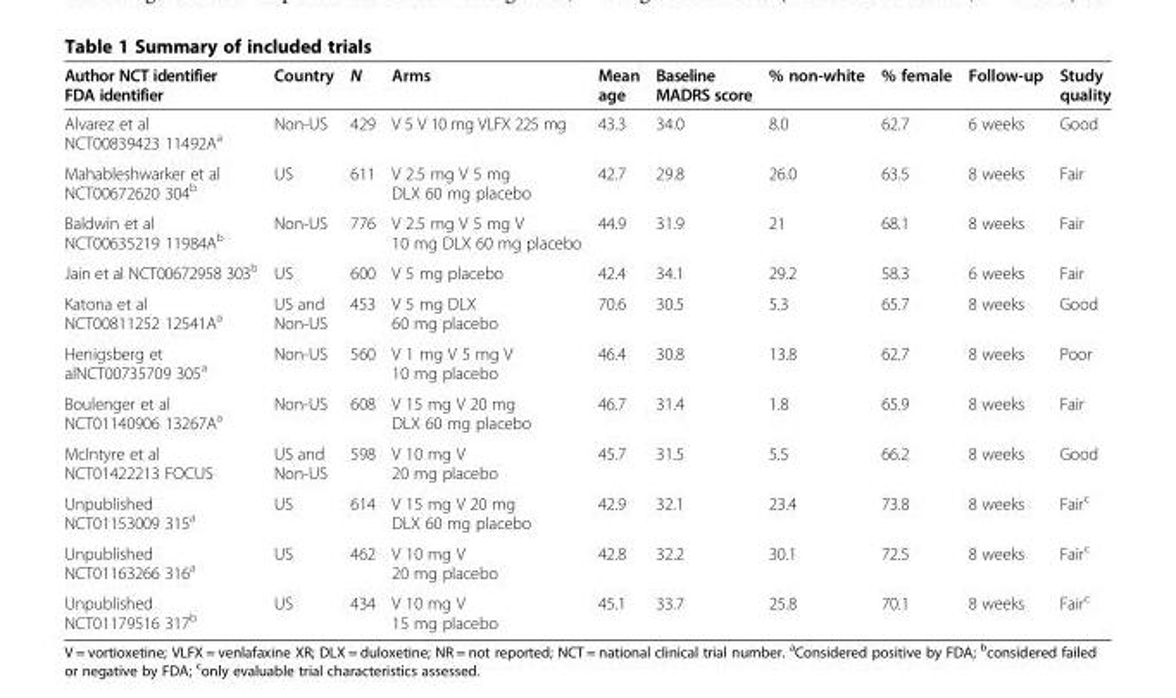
<table><thead><tr><td>Author NCT identifier FDA identifier</td><td>Country</td><td>N</td><td>Arms</td><td>Mean age</td><td>Baseline MADRS score</td><td>% non-white</td><td>% female</td><td>Follow-up</td><td>Study quality</td></tr></thead><tbody><tr><td>Alvarez et al NCT00839423 11492A<sup>a</sup></td><td>Non-US</td><td>429</td><td>V 5 V 10 mg VLFX 225 mg</td><td>43.3</td><td>34.0</td><td>8.0</td><td>62.7</td><td>6 weeks</td><td>Good</td></tr><tr><td>Mahableshwarker et al NCT00672620 304<sup>b</sup></td><td>US</td><td>611</td><td>V 2.5 mg V 5 mg DLX 60 mg placebo</td><td>42.7</td><td>29.8</td><td>26.0</td><td>63.5</td><td>8 weeks</td><td>Fair</td></tr><tr><td>Baldwin et al NCT00635219 11984A<sup>b</sup></td><td>Non-US</td><td>776</td><td>V 2.5 mg V 5 mg V 10 mg DLX 60 mg placebo</td><td>44.9</td><td>31.9</td><td>21</td><td>68.1</td><td>8 weeks</td><td>Fair</td></tr><tr><td>Jain et al NCT00672958 303<sup>b</sup></td><td>US</td><td>600</td><td>V 5 mg placebo</td><td>42.4</td><td>34.1</td><td>29.2</td><td>58.3</td><td>6 weeks</td><td>Fair</td></tr><tr><td>Katona et al NCT00811252 12541A<sup>a</sup></td><td>US and Non-US</td><td>453</td><td>V 5 mg DLX 60 mg placebo</td><td>70.6</td><td>30.5</td><td>5.3</td><td>65.7</td><td>8 weeks</td><td>Good</td></tr><tr><td>Henigsberg et alNCT00735709 305<sup>a</sup></td><td>Non-US</td><td>560</td><td>V 1 mg V 5 mg V 10 mg placebo</td><td>46.4</td><td>30.8</td><td>13.8</td><td>62.7</td><td>8 weeks</td><td>Poor</td></tr><tr><td>Boulenger et al NCT01140906 13267A<sup>a</sup></td><td>Non-US</td><td>608</td><td>V 15 mg V 20 mg DLX 60 mg placebo</td><td>46.7</td><td>31.4</td><td>1.8</td><td>65.9</td><td>8 weeks</td><td>Fair</td></tr><tr><td>McIntyre et al NCT01422213 FOCUS</td><td>US and Non-US</td><td>598</td><td>V 10 mg V 20 mg placebo</td><td>45.7</td><td>31.5</td><td>5.5</td><td>66.2</td><td>8 weeks</td><td>Good</td></tr><tr><td>Unpublished NCT01153009 315<sup>a</sup></td><td>US</td><td>614</td><td>V 15 mg V 20 mg DLX 60 mg placebo</td><td>42.9</td><td>32.1</td><td>23.4</td><td>73.8</td><td>8 weeks</td><td>Fair<sup>c</sup></td></tr><tr><td>Unpublished NCT01163266 316<sup>a</sup></td><td>US</td><td>462</td><td>V 10 mg V 20 mg placebo</td><td>42.8</td><td>32.2</td><td>30.1</td><td>72.5</td><td>8 weeks</td><td>Fair<sup>c</sup></td></tr><tr><td>Unpublished NCT01179516 317<sup>b</sup></td><td>US</td><td>434</td><td>V 10 mg V 15 mg placebo</td><td>45.1</td><td>33.7</td><td>25.8</td><td>70.1</td><td>8 weeks</td><td>Fair<sup>c</sup></td></tr></tbody></table>